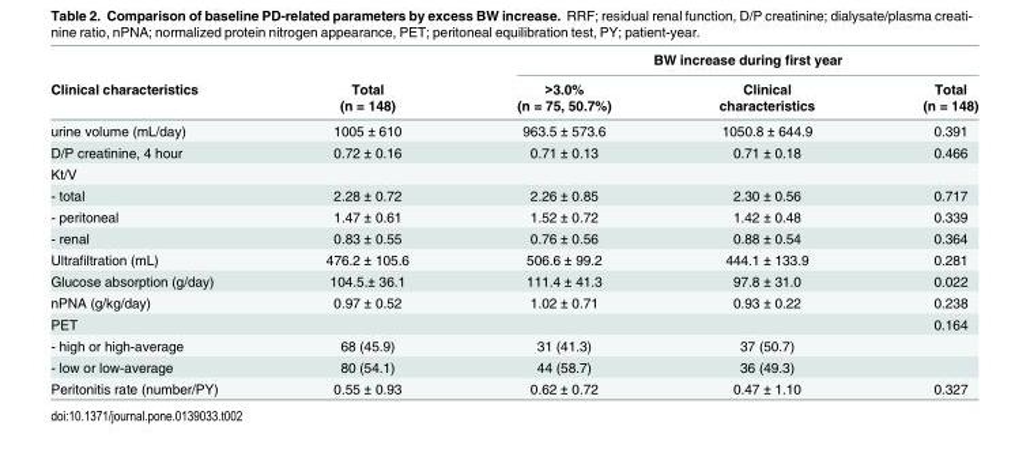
<table><thead><tr><td rowspan="3">Clinical characteristics</td><td rowspan="3">Total (n = 148)</td><td colspan="3">BW increase during first year</td></tr><tr><td rowspan="2">&gt;3.0% (n = 75, 50.7%)</td><td rowspan="2">Clinical characteristics</td><td rowspan="2">Total (n = 148)</td></tr><tr></tr></thead><tbody><tr><td>urine volume (mL/day)</td><td>1005 ± 610</td><td>963.5 ± 573.6</td><td>1050.8 ± 644.9</td><td>0.391</td></tr><tr><td>D/P creatinine, 4 hour</td><td>0.72 ± 0.16</td><td>0.71 ± 0.13</td><td>0.71 ± 0.18</td><td>0.466</td></tr><tr><td colspan="5">Kt/V</td></tr><tr><td>- total</td><td>2.28 ± 0.72</td><td>2.26 ± 0.85</td><td>2.30 ± 0.56</td><td>0.717</td></tr><tr><td>- peritoneal</td><td>1.47 ± 0.61</td><td>1.52 ± 0.72</td><td>1.42 ± 0.48</td><td>0.339</td></tr><tr><td>- renal</td><td>0.83 ± 0.55</td><td>0.76 ± 0.56</td><td>0.88 ± 0.54</td><td>0.364</td></tr><tr><td>Ultrafiltration (mL)</td><td>476.2 ± 105.6</td><td>506.6 ± 99.2</td><td>444.1 ± 133.9</td><td>0.281</td></tr><tr><td>Glucose absorption (g/day)</td><td>104.5.± 36.1</td><td>111.4 ± 41.3</td><td>97.8 ± 31.0</td><td>0.022</td></tr><tr><td>nPNA (g/kg/day)</td><td>0.97 ± 0.52</td><td>1.02 ± 0.71</td><td>0.93 ± 0.22</td><td>0.238</td></tr><tr><td>PET</td><td></td><td></td><td></td><td>0.164</td></tr><tr><td>- high or high-average</td><td>68 (45.9)</td><td>31 (41.3)</td><td>37 (50.7)</td><td></td></tr><tr><td>- low or low-average</td><td>80 (54.1)</td><td>44 (58.7)</td><td>36 (49.3)</td><td></td></tr><tr><td>Peritonitis rate (number/PY)</td><td>0.55 ± 0.93</td><td>0.62 ± 0.72</td><td>0.47 ± 1.10</td><td>0.327</td></tr></tbody></table>